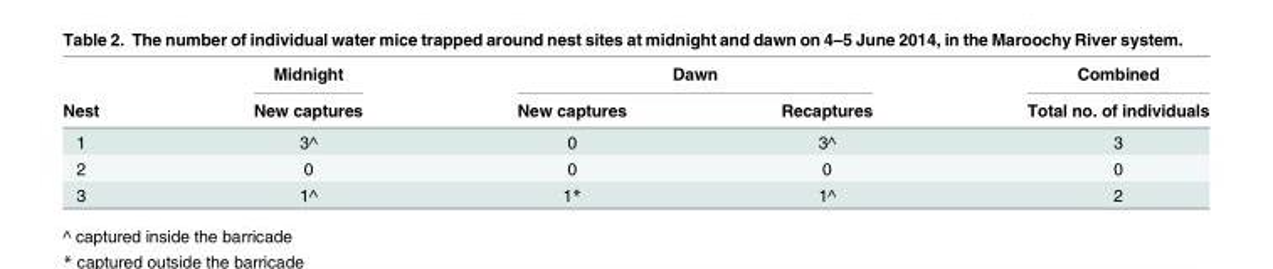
<table><thead><tr><td rowspan="2">Nest</td><td rowspan="2">Midnight New captures</td><td colspan="2">Dawn</td><td rowspan="2">Combined Total no. of individuals</td></tr><tr><td>New captures</td><td>Recaptures</td></tr></thead><tbody><tr><td>1</td><td>3^</td><td>0</td><td>3^</td><td>3</td></tr><tr><td>2</td><td>0</td><td>0</td><td>0</td><td>0</td></tr><tr><td>3</td><td>1^</td><td>1*</td><td>1^</td><td>2</td></tr></tbody></table>